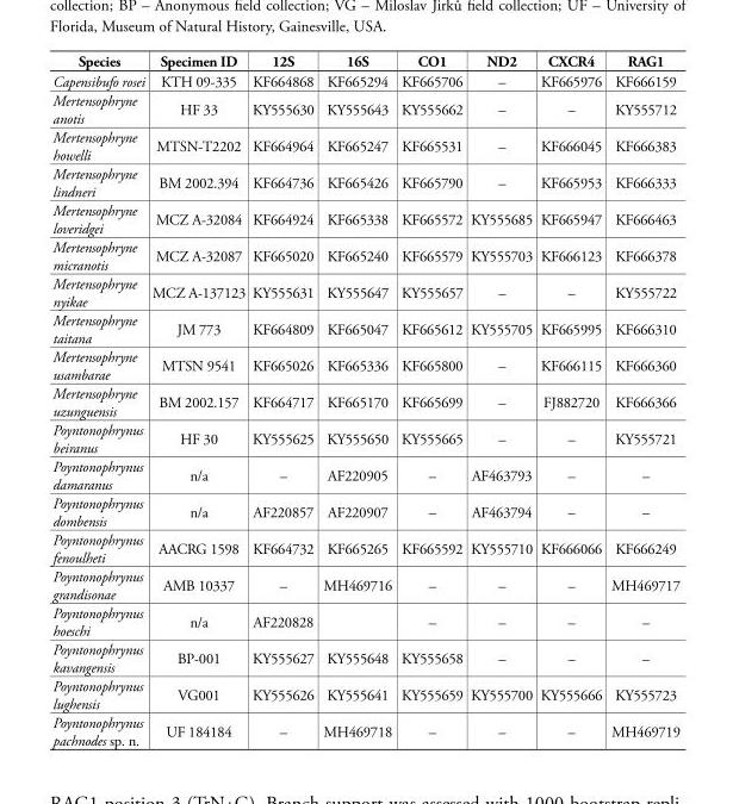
<table><thead><tr><td>Species</td><td>Specimen ID</td><td>12S</td><td>16S</td><td>CO1</td><td>ND2</td><td>CXCR4</td><td>RAG1</td></tr></thead><tbody><tr><td>Capensibufo rosei</td><td>KTH 09-335</td><td>KF664868</td><td>KF665294</td><td>KF665706</td><td>–</td><td>KF665976</td><td>KF666159</td></tr><tr><td>Mertensophryne anotis</td><td>HF 33</td><td>KY555630</td><td>KY555643</td><td>KY555662</td><td>–</td><td>–</td><td>KY555712</td></tr><tr><td>Mertensophryne howelli</td><td>MTSN-T2202</td><td>KF664964</td><td>KF665247</td><td>KF665531</td><td>–</td><td>KF666045</td><td>KF666383</td></tr><tr><td>Mertensophryne lindneri</td><td>BM 2002.394</td><td>KF664736</td><td>KF665426</td><td>KF665790</td><td>–</td><td>KF665953</td><td>KF666333</td></tr><tr><td>Mertensophryne loveridgei</td><td>MCZ A-32084</td><td>KF664924</td><td>KF665338</td><td>KF665572</td><td>KY555685</td><td>KF665947</td><td>KF666463</td></tr><tr><td>Mertensophryne micranotis</td><td>MCZ A-32087</td><td>KF665020</td><td>KF665240</td><td>KF665579</td><td>KY555703</td><td>KF666123</td><td>KF666378</td></tr><tr><td>Mertensophryne nyikae</td><td>MCZ A-137123</td><td>KY555631</td><td>KY555647</td><td>KY555657</td><td>–</td><td>–</td><td>KY555722</td></tr><tr><td>Mertensophryne taitana</td><td>JM 773</td><td>KF664809</td><td>KF665047</td><td>KF665612</td><td>KY555705</td><td>KF665995</td><td>KF666310</td></tr><tr><td>Mertensophryne usambarae</td><td>MTSN 9541</td><td>KF665026</td><td>KF665336</td><td>KF665800</td><td>–</td><td>KF666115</td><td>KF666360</td></tr><tr><td>Mertensophryne uzunguensis</td><td>BM 2002.157</td><td>KF664717</td><td>KF665170</td><td>KF665699</td><td>–</td><td>FJ882720</td><td>KF666366</td></tr><tr><td>Poyntonophrynus beiranus</td><td>HF 30</td><td>KY555625</td><td>KY555650</td><td>KY555665</td><td>–</td><td>–</td><td>KY555721</td></tr><tr><td>Poyntonophrynus damaranus</td><td>n/a</td><td>–</td><td>AF220905</td><td>–</td><td>AF463793</td><td>–</td><td>–</td></tr><tr><td>Poyntonophrynus dombensis</td><td>n/a</td><td>AF220857</td><td>AF220907</td><td>–</td><td>AF463794</td><td>–</td><td>–</td></tr><tr><td>Poyntonophrynus fenoulheti</td><td>AACRG 1598</td><td>KF664732</td><td>KF665265</td><td>KF665592</td><td>KY555710</td><td>KF666066</td><td>KF666249</td></tr><tr><td>Poyntonophrynus grandisonae</td><td>AMB 10337</td><td>–</td><td>MH469716</td><td>–</td><td>–</td><td>–</td><td>MH469717</td></tr><tr><td>Poyntonophrynus hoeschi</td><td>n/a</td><td>AF220828</td><td></td><td>–</td><td>–</td><td>–</td><td>–</td></tr><tr><td>Poyntonophrynus kavangensis</td><td>BP-001</td><td>KY555627</td><td>KY555648</td><td>KY555658</td><td>–</td><td>–</td><td>–</td></tr><tr><td>Poyntonophrynus lughensis</td><td>VG001</td><td>KY555626</td><td>KY555641</td><td>KY555659</td><td>KY555700</td><td>KY555666</td><td>KY555723</td></tr><tr><td>Poyntonophrynus pachnodes sp. n.</td><td>UF 184184</td><td>–</td><td>MH469718</td><td>–</td><td>–</td><td>–</td><td>MH469719</td></tr></tbody></table>